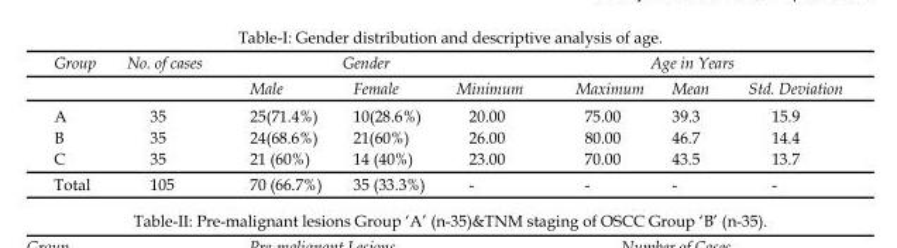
<table><thead><tr><td rowspan="2">Group</td><td rowspan="2">No. of cases</td><td colspan="2">Gender</td><td colspan="4">Age in Years</td></tr><tr><td>Male</td><td>Female</td><td>Minimum</td><td>Maximum</td><td>Mean</td><td>Std. Deviation</td></tr></thead><tbody><tr><td>A</td><td>35</td><td>25(71.4%)</td><td>10(28.6%)</td><td>20.00</td><td>75.00</td><td>39.3</td><td>15.9</td></tr><tr><td>B</td><td>35</td><td>24(68.6%)</td><td>21(60%)</td><td>26.00</td><td>80.00</td><td>46.7</td><td>14.4</td></tr><tr><td>C</td><td>35</td><td>21 (60%)</td><td>14 (40%)</td><td>23.00</td><td>70.00</td><td>43.5</td><td>13.7</td></tr><tr><td>Total</td><td>105</td><td>70 (66.7%)</td><td>35 (33.3%)</td><td>-</td><td>-</td><td>-</td><td>-</td></tr></tbody></table>